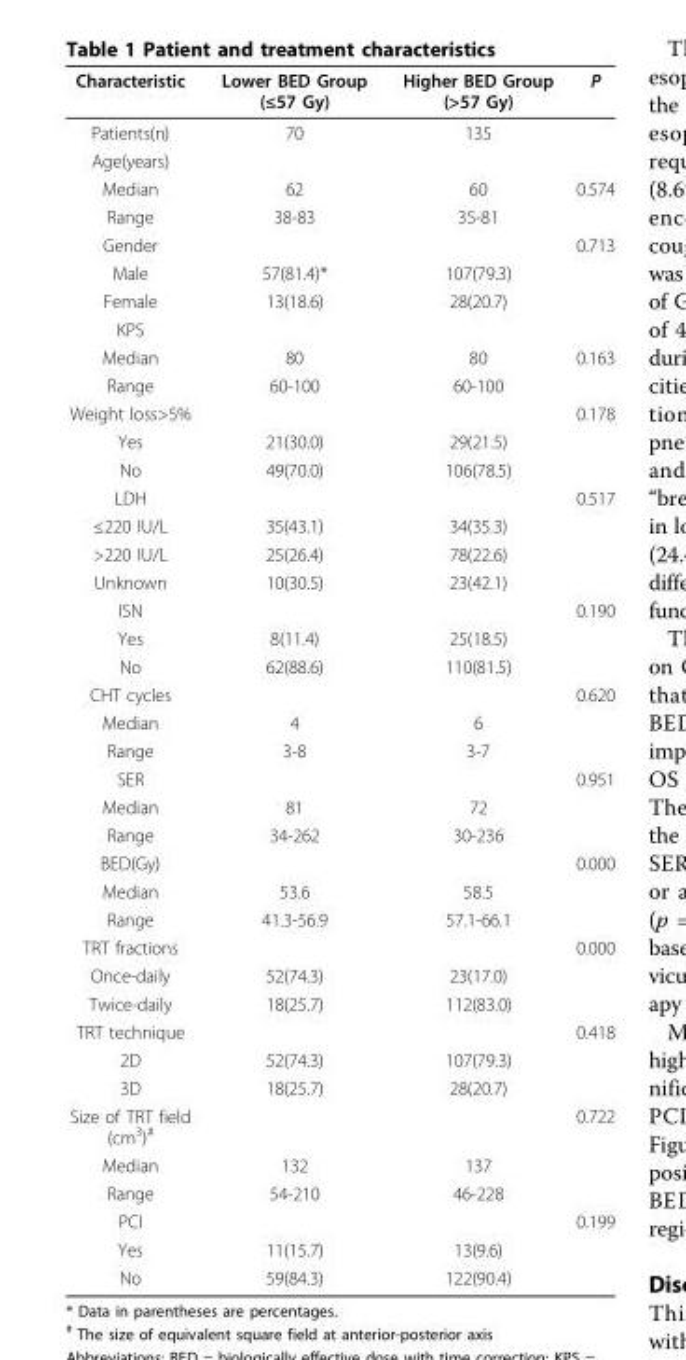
<table><thead><tr><td>Characteristic</td><td>Lower BED Group (≤57 Gy)</td><td>Higher BED Group (&gt;57 Gy)</td><td>P</td></tr></thead><tbody><tr><td>Patients(n)</td><td>70</td><td>135</td><td></td></tr><tr><td colspan="4">Age(years)</td></tr><tr><td>Median</td><td>62</td><td>60</td><td>0.574</td></tr><tr><td>Range</td><td>38-83</td><td>35-81</td><td></td></tr><tr><td>Gender</td><td></td><td></td><td>0.713</td></tr><tr><td>Male</td><td>57(81.4)*</td><td>107(79.3)</td><td></td></tr><tr><td>Female</td><td>13(18.6)</td><td>28(20.7)</td><td></td></tr><tr><td colspan="4">KPS</td></tr><tr><td>Median</td><td>80</td><td>80</td><td>0.163</td></tr><tr><td>Range</td><td>60-100</td><td>60-100</td><td></td></tr><tr><td>Weight loss&gt;5%</td><td></td><td></td><td>0.178</td></tr><tr><td>Yes</td><td>21(30.0)</td><td>29(21.5)</td><td></td></tr><tr><td>No</td><td>49(70.0)</td><td>106(78.5)</td><td></td></tr><tr><td>LDH</td><td></td><td></td><td>0.517</td></tr><tr><td>≤220 IU/L</td><td>35(43.1)</td><td>34(35.3)</td><td></td></tr><tr><td>&gt;220 IU/L</td><td>25(26.4)</td><td>78(22.6)</td><td></td></tr><tr><td>Unknown</td><td>10(30.5)</td><td>23(42.1)</td><td></td></tr><tr><td>ISN</td><td></td><td></td><td>0.190</td></tr><tr><td>Yes</td><td>8(11.4)</td><td>25(18.5)</td><td></td></tr><tr><td>No</td><td>62(88.6)</td><td>110(81.5)</td><td></td></tr><tr><td>CHT cycles</td><td></td><td></td><td>0.620</td></tr><tr><td>Median</td><td>4</td><td>6</td><td></td></tr><tr><td>Range</td><td>3-8</td><td>3-7</td><td></td></tr><tr><td>SER</td><td></td><td></td><td>0.951</td></tr><tr><td>Median</td><td>81</td><td>72</td><td></td></tr><tr><td>Range</td><td>34-262</td><td>30-236</td><td></td></tr><tr><td>BED(Gy)</td><td></td><td></td><td>0.000</td></tr><tr><td>Median</td><td>53.6</td><td>58.5</td><td></td></tr><tr><td>Range</td><td>41.3-56.9</td><td>57.1-66.1</td><td></td></tr><tr><td>TRT fractions</td><td></td><td></td><td>0.000</td></tr><tr><td>Once-daily</td><td>52(74.3)</td><td>23(17.0)</td><td></td></tr><tr><td>Twice-daily</td><td>18(25.7)</td><td>112(83.0)</td><td></td></tr><tr><td>TRT technique</td><td></td><td></td><td>0.418</td></tr><tr><td>2D</td><td>52(74.3)</td><td>107(79.3)</td><td></td></tr><tr><td>3D</td><td>18(25.7)</td><td>28(20.7)</td><td></td></tr><tr><td>Size of TRT field (cm<sup>3</sup>)<sup>#</sup></td><td></td><td></td><td>0.722</td></tr><tr><td>Median</td><td>132</td><td>137</td><td></td></tr><tr><td>Range</td><td>54-210</td><td>46-228</td><td></td></tr><tr><td>PCI</td><td></td><td></td><td>0.199</td></tr><tr><td>Yes</td><td>11(15.7)</td><td>13(9.6)</td><td></td></tr><tr><td>No</td><td>59(84.3)</td><td>122(90.4)</td><td></td></tr></tbody></table>